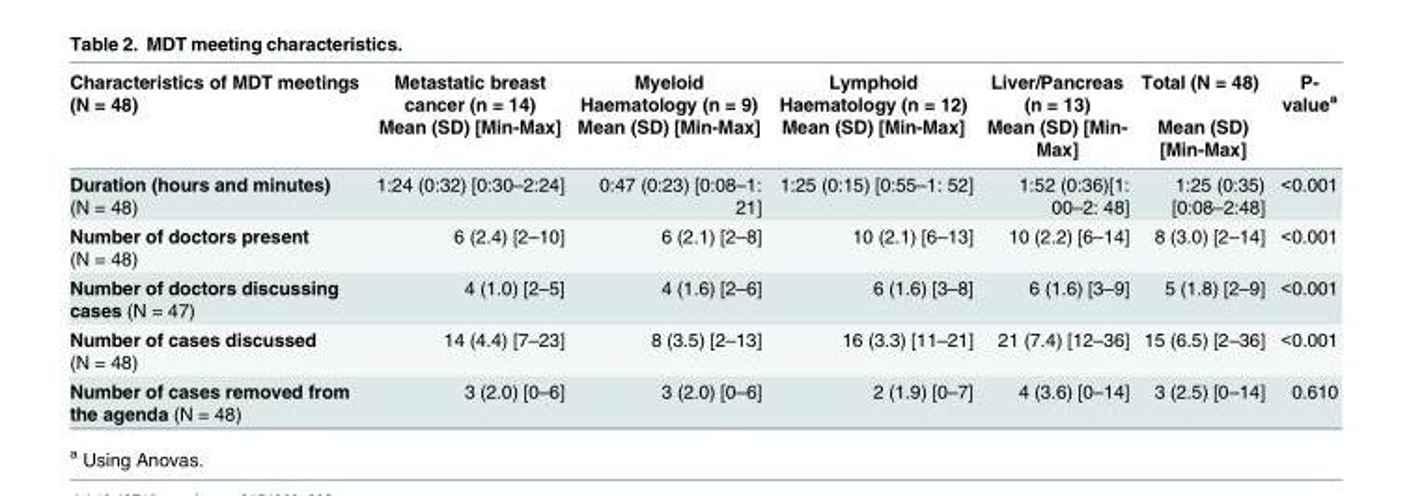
<table><thead><tr><td rowspan="2">Characteristics of MDT meetings (N = 48)</td><td rowspan="2">Metastatic breast cancer (n = 14) Mean (SD) [Min-Max]</td><td rowspan="2">Myeloid Haematology (n = 9) Mean (SD) [Min-Max]</td><td rowspan="2">Lymphoid Haematology (n = 12) Mean (SD) [Min-Max]</td><td rowspan="2">Liver/Pancreas (n = 13) Mean (SD) [Min- Max]</td><td rowspan="2">Total (N = 48) Mean (SD) [Min-Max]</td><td rowspan="2">P- value<sup>a</sup></td></tr><tr></tr></thead><tbody><tr><td>Duration (hours and minutes) (N = 48)</td><td>1:24 (0:32) [0:30–2:24]</td><td>0:47 (0:23) [0:08–1: 21]</td><td>1:25 (0:15) [0:55–1: 52]</td><td>1:52 (0:36)[1: 00–2: 48]</td><td>1:25 (0:35) [0:08–2:48]</td><td>&lt;0.001</td></tr><tr><td>Number of doctors present (N = 48)</td><td>6 (2.4) [2–10]</td><td>6 (2.1) [2–8]</td><td>10 (2.1) [6–13]</td><td>10 (2.2) [6–14]</td><td>8 (3.0) [2–14]</td><td>&lt;0.001</td></tr><tr><td>Number of doctors discussing cases (N = 47)</td><td>4 (1.0) [2–5]</td><td>4 (1.6) [2–6]</td><td>6 (1.6) [3–8]</td><td>6 (1.6) [3–9]</td><td>5 (1.8) [2–9]</td><td>&lt;0.001</td></tr><tr><td>Number of cases discussed (N = 48)</td><td>14 (4.4) [7–23]</td><td>8 (3.5) [2–13]</td><td>16 (3.3) [11–21]</td><td>21 (7.4) [12–36]</td><td>15 (6.5) [2–36]</td><td>&lt;0.001</td></tr><tr><td>Number of cases removed from the agenda (N = 48)</td><td>3 (2.0) [0–6]</td><td>3 (2.0) [0–6]</td><td>2 (1.9) [0–7]</td><td>4 (3.6) [0–14]</td><td>3 (2.5) [0–14]</td><td>0.610</td></tr></tbody></table>